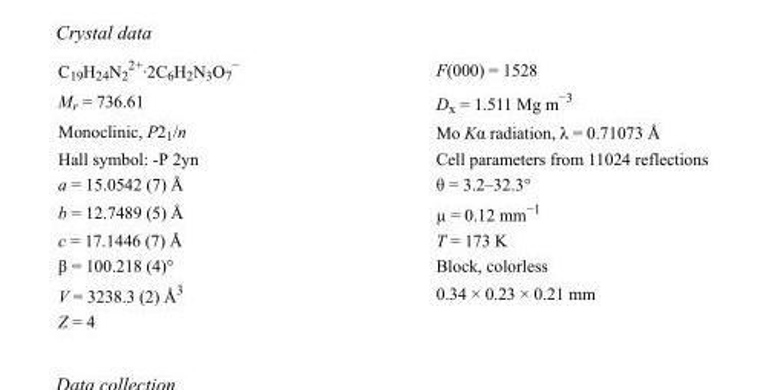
<table><tbody><tr><td>C<sub>19</sub>H<sub>24</sub>N<sub>2</sub> <sup>2+</sup>·2C<sub>6</sub>H<sub>2</sub>N<sub>3</sub>O<sub>7</sub> <sup>−</sup></td><td>F(000) = 1528</td></tr><tr><td>M<sub>r</sub> = 736.61</td><td>D<sub>x</sub> = 1.511 Mg m<sup>−3</sup></td></tr><tr><td>Monoclinic, P2<sub>1</sub>/n</td><td>Mo Kα radiation, λ = 0.71073 Å</td></tr><tr><td>Hall symbol: -P 2yn</td><td>Cell parameters from 11024 reflections</td></tr><tr><td>a = 15.0542 (7) Å</td><td>θ = 3.2–32.3°</td></tr><tr><td>b = 12.7489 (5) Å</td><td>µ = 0.12 mm<sup>−1</sup></td></tr><tr><td>c = 17.1446 (7) Å</td><td>T = 173 K</td></tr><tr><td>β = 100.218 (4)°</td><td>Block, colorless</td></tr><tr><td>V = 3238.3 (2) Å<sup>3</sup></td><td>0.34 × 0.23 × 0.21 mm</td></tr><tr><td>Z = 4</td><td></td></tr></tbody></table>